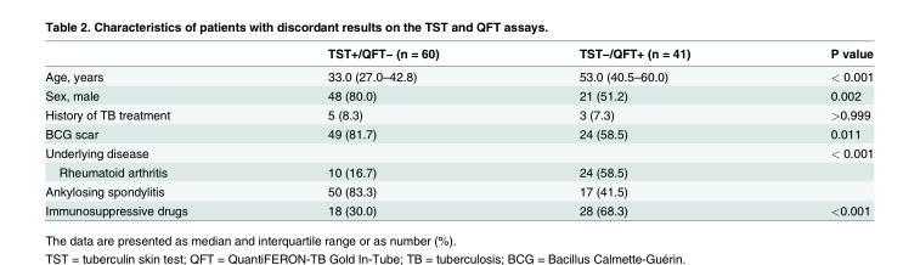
<table><thead><tr><td></td><td>TST+/QFT− (n = 60)</td><td>TST−/QFT+ (n = 41)</td><td>P value</td></tr></thead><tbody><tr><td>Age, years</td><td>33.0 (27.0–42.8)</td><td>53.0 (40.5–60.0)</td><td>&lt; 0.001</td></tr><tr><td>Sex, male</td><td>48 (80.0)</td><td>21 (51.2)</td><td>0.002</td></tr><tr><td>History of TB treatment</td><td>5 (8.3)</td><td>3 (7.3)</td><td>&gt;0.999</td></tr><tr><td>BCG scar</td><td>49 (81.7)</td><td>24 (58.5)</td><td>0.011</td></tr><tr><td colspan="3">Underlying disease</td><td rowspan="3">&lt; 0.001</td></tr><tr><td>Rheumatoid arthritis</td><td>10 (16.7)</td><td>24 (58.5)</td></tr><tr><td>Ankylosing spondylitis</td><td>50 (83.3)</td><td>17 (41.5)</td></tr><tr><td>Immunosuppressive drugs</td><td>18 (30.0)</td><td>28 (68.3)</td><td>&lt;0.001</td></tr></tbody></table>